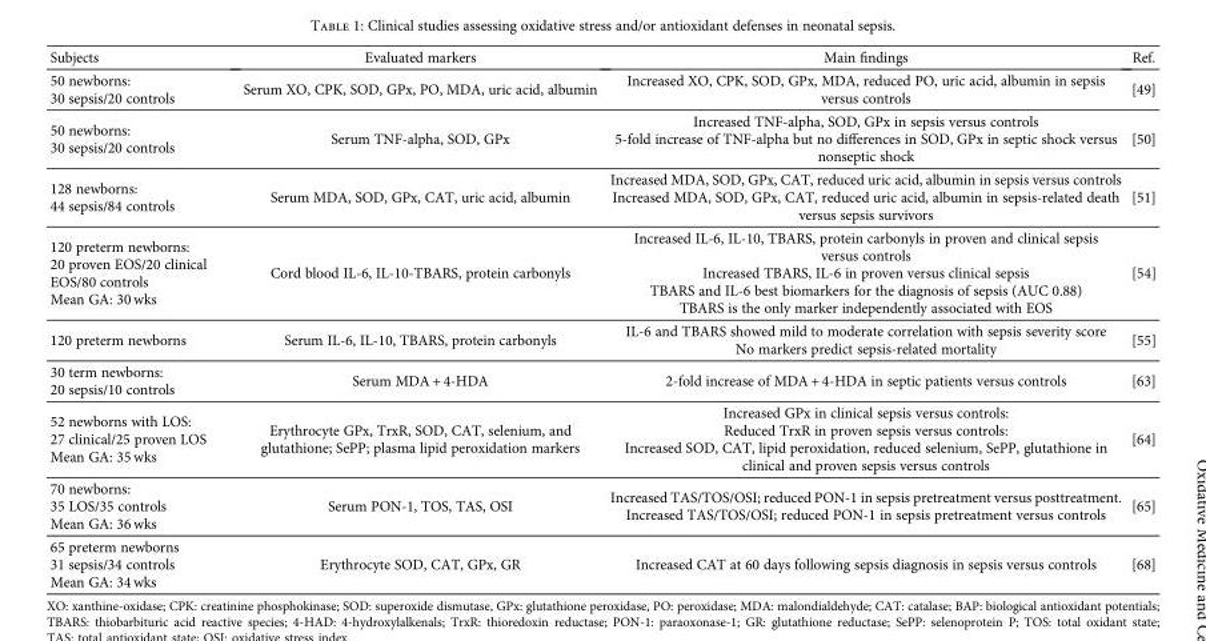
<table><thead><tr><td>Subjects</td><td>Evaluated markers</td><td>Main findings</td><td>Ref.</td></tr></thead><tbody><tr><td>50 newborns: 30 sepsis/20 controls</td><td>Serum XO, CPK, SOD, GPx, PO, MDA, uric acid, albumin</td><td>Increased XO, CPK, SOD, GPx, MDA, reduced PO, uric acid, albumin in sepsis versus controls</td><td>[49]</td></tr><tr><td>50 newborns: 30 sepsis/20 controls</td><td>Serum TNF-alpha, SOD, GPx</td><td>Increased TNF-alpha, SOD, GPx in sepsis versus controls 5-fold increase of TNF-alpha but no differences in SOD, GPx in septic shock versus nonseptic shock</td><td>[50]</td></tr><tr><td>128 newborns: 44 sepsis/84 controls</td><td>Serum MDA, SOD, GPx, CAT, uric acid, albumin</td><td>Increased MDA, SOD, GPx, CAT, reduced uric acid, albumin in sepsis versus controls Increased MDA, SOD, GPx, CAT, reduced uric acid, albumin in sepsis-related death versus sepsis survivors</td><td>[51]</td></tr><tr><td>120 preterm newborns: 20 proven EOS/20 clinical EOS/80 controls Mean GA: 30 wks</td><td>Cord blood IL-6, IL-10-TBARS, protein carbonyls</td><td>Increased IL-6, IL-10, TBARS, protein carbonyls in proven and clinical sepsis versus controls Increased TBARS, IL-6 in proven versus clinical sepsis TBARS and IL-6 best biomarkers for the diagnosis of sepsis (AUC 0.88) TBARS is the only marker independently associated with EOS</td><td>[54]</td></tr><tr><td>120 preterm newborns</td><td>Serum IL-6, IL-10, TBARS, protein carbonyls</td><td>IL-6 and TBARS showed mild to moderate correlation with sepsis severity score No markers predict sepsis-related mortality</td><td>[55]</td></tr><tr><td>30 term newborns: 20 sepsis/10 controls</td><td>Serum MDA + 4-HDA</td><td>2-fold increase of MDA + 4-HDA in septic patients versus controls</td><td>[63]</td></tr><tr><td>52 newborns with LOS: 27 clinical/25 proven LOS Mean GA: 35 wks</td><td>Erythrocyte GPx, TrxR, SOD, CAT, selenium, and glutathione; SePP; plasma lipid peroxidation markers</td><td>Increased GPx in clinical sepsis versus controls: Reduced TrxR in proven sepsis versus controls: Increased SOD, CAT, lipid peroxidation, reduced selenium, SePP, glutathione in clinical and proven sepsis versus controls</td><td>[64]</td></tr><tr><td>70 newborns: 35 LOS/35 controls Mean GA: 36 wks</td><td>Serum PON-1, TOS, TAS, OSI</td><td>Increased TAS/TOS/OSI; reduced PON-1 in sepsis pretreatment versus posttreatment. Increased TAS/TOS/OSI; reduced PON-1 in sepsis pretreatment versus controls</td><td>[65]</td></tr><tr><td>65 preterm newborns 31 sepsis/34 controls Mean GA: 34 wks</td><td>Erythrocyte SOD, CAT, GPx, GR</td><td>Increased CAT at 60 days following sepsis diagnosis in sepsis versus controls</td><td>[68]</td></tr></tbody></table>